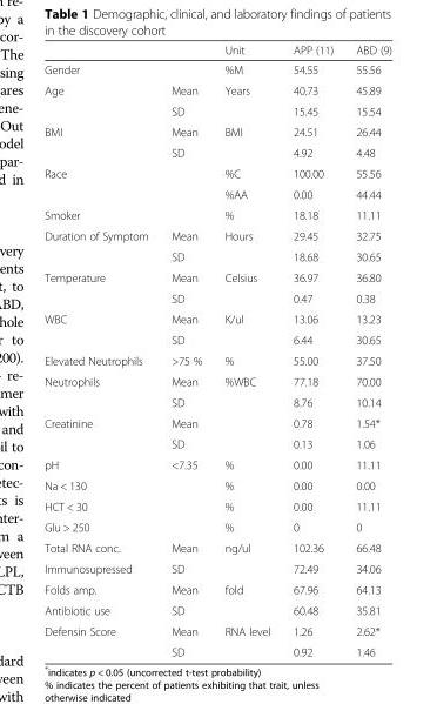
<table><thead><tr><td></td><td></td><td>Unit</td><td>APP (11)</td><td>ABD (9)</td></tr></thead><tbody><tr><td>Gender</td><td></td><td>%M</td><td>54.55</td><td>55.56</td></tr><tr><td rowspan="2">Age</td><td>Mean</td><td>Years</td><td>40.73</td><td>45.89</td></tr><tr><td>SD</td><td></td><td>15.45</td><td>15.54</td></tr><tr><td rowspan="2">BMI</td><td>Mean</td><td>BMI</td><td>24.51</td><td>26.44</td></tr><tr><td>SD</td><td></td><td>4.92</td><td>4.48</td></tr><tr><td rowspan="2">Race</td><td></td><td>%C</td><td>100.00</td><td>55.56</td></tr><tr><td></td><td>%AA</td><td>0.00</td><td>44.44</td></tr><tr><td>Smoker</td><td></td><td>%</td><td>18.18</td><td>11.11</td></tr><tr><td rowspan="2">Duration of Symptom</td><td>Mean</td><td>Hours</td><td>29.45</td><td>32.75</td></tr><tr><td>SD</td><td></td><td>18.68</td><td>30.65</td></tr><tr><td rowspan="2">Temperature</td><td>Mean</td><td>Celsius</td><td>36.97</td><td>36.80</td></tr><tr><td>SD</td><td></td><td>0.47</td><td>0.38</td></tr><tr><td rowspan="2">WBC</td><td>Mean</td><td>K/ul</td><td>13.06</td><td>13.23</td></tr><tr><td>SD</td><td></td><td>6.44</td><td>30.65</td></tr><tr><td>Elevated Neutrophils</td><td>&gt;75 %</td><td>%</td><td>55.00</td><td>37.50</td></tr><tr><td rowspan="2">Neutrophils</td><td>Mean</td><td>%WBC</td><td>77.18</td><td>70.00</td></tr><tr><td>SD</td><td></td><td>8.76</td><td>10.14</td></tr><tr><td rowspan="2">Creatinine</td><td>Mean</td><td></td><td>0.78</td><td>1.54*</td></tr><tr><td>SD</td><td></td><td>0.13</td><td>1.06</td></tr><tr><td>pH</td><td>&lt;7.35</td><td>%</td><td>0.00</td><td>11.11</td></tr><tr><td>Na &lt; 130</td><td></td><td>%</td><td>0.00</td><td>0.00</td></tr><tr><td>HCT &lt; 30</td><td></td><td>%</td><td>0.00</td><td>11.11</td></tr><tr><td>Glu &gt; 250</td><td></td><td>%</td><td>0</td><td>0</td></tr><tr><td>Total RNA conc.</td><td>Mean</td><td>ng/ul</td><td>102.36</td><td>66.48</td></tr><tr><td>Immunosupressed</td><td>SD</td><td></td><td>72.49</td><td>34.06</td></tr><tr><td>Folds amp.</td><td>Mean</td><td>fold</td><td>67.96</td><td>64.13</td></tr><tr><td>Antibiotic use</td><td>SD</td><td></td><td>60.48</td><td>35.81</td></tr><tr><td rowspan="2">Defensin Score</td><td>Mean</td><td>RNA level</td><td>1.26</td><td>2.62*</td></tr><tr><td>SD</td><td></td><td>0.92</td><td>1.46</td></tr></tbody></table>